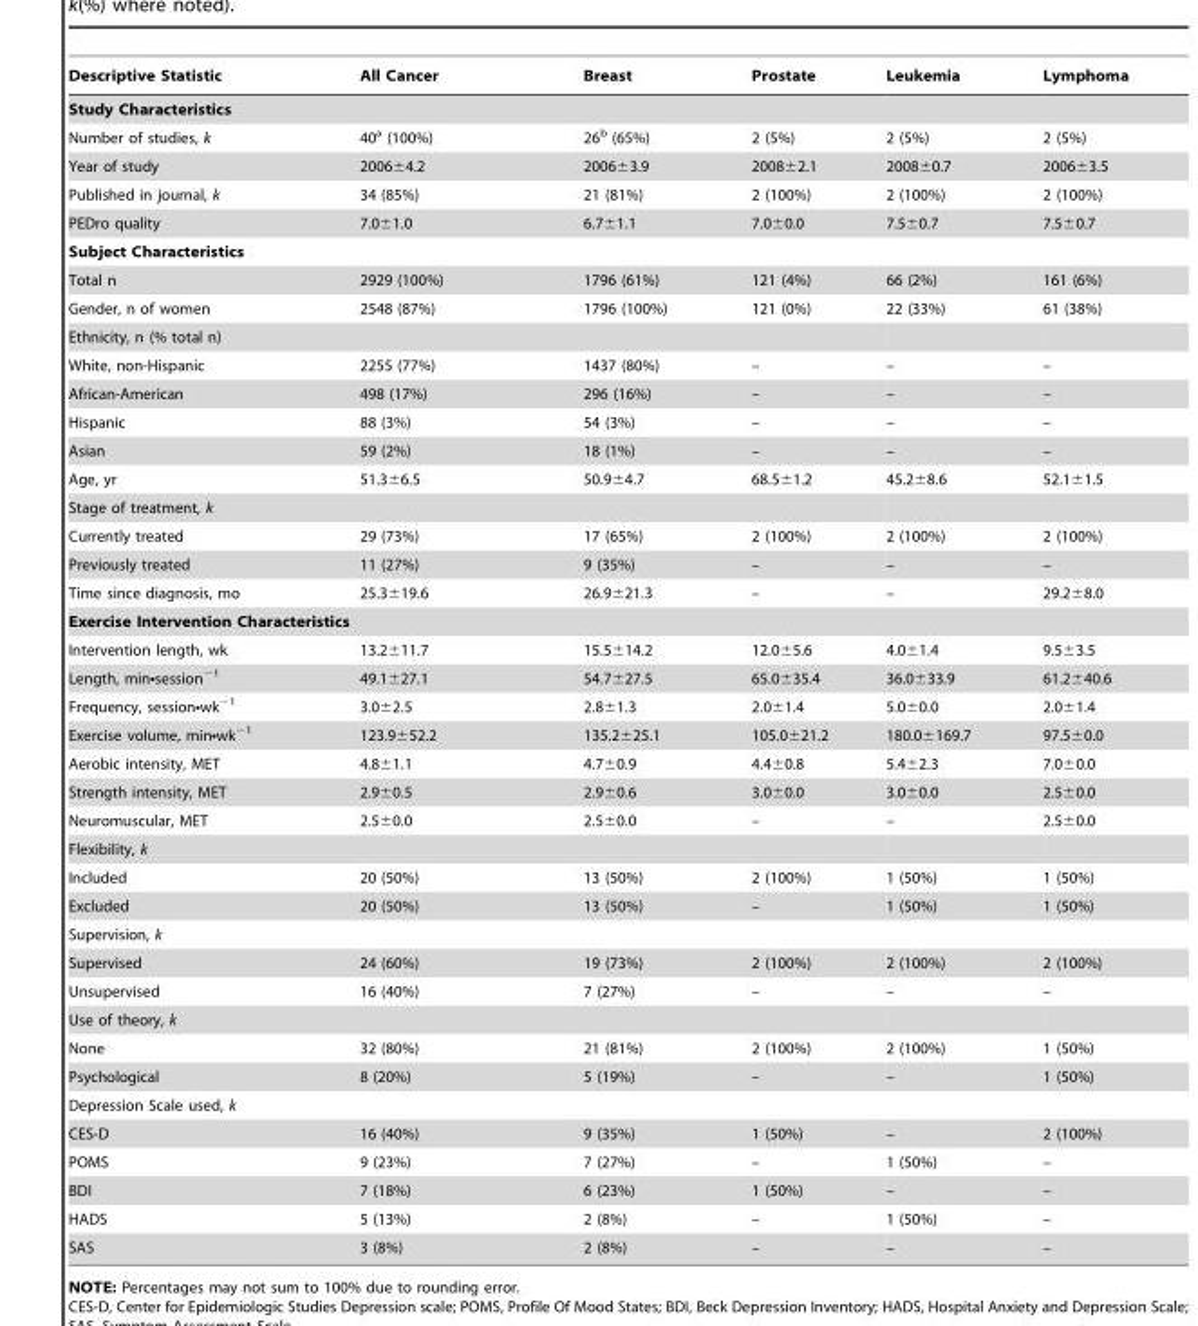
<table><thead><tr><td>Descriptive Statistic</td><td>All Cancer</td><td>Breast</td><td>Prostate</td><td>Leukemia</td><td>Lymphoma</td></tr></thead><tbody><tr><td colspan="6">Study Characteristics</td></tr><tr><td>Number of studies, k</td><td>40<sup>a</sup> (100%)</td><td>26<sup>b</sup> (65%)</td><td>2 (5%)</td><td>2 (5%)</td><td>2 (5%)</td></tr><tr><td>Year of study</td><td>2006±4.2</td><td>2006±3.9</td><td>2008±2.1</td><td>2008±0.7</td><td>2006±3.5</td></tr><tr><td>Published in journal, k</td><td>34 (85%)</td><td>21 (81%)</td><td>2 (100%)</td><td>2 (100%)</td><td>2 (100%)</td></tr><tr><td>PEDro quality</td><td>7.0±1.0</td><td>6.7±1.1</td><td>7.0±0.0</td><td>7.5±0.7</td><td>7.5±0.7</td></tr><tr><td colspan="6">Subject Characteristics</td></tr><tr><td>Total n</td><td>2929 (100%)</td><td>1796 (61%)</td><td>121 (4%)</td><td>66 (2%)</td><td>161 (6%)</td></tr><tr><td>Gender, n of women</td><td>2548 (87%)</td><td>1796 (100%)</td><td>121 (0%)</td><td>22 (33%)</td><td>61 (38%)</td></tr><tr><td colspan="6">Ethnicity, n (% total n)</td></tr><tr><td>White, non-Hispanic</td><td>2255 (77%)</td><td>1437 (80%)</td><td>–</td><td>–</td><td>–</td></tr><tr><td>African-American</td><td>498 (17%)</td><td>296 (16%)</td><td>–</td><td>–</td><td>–</td></tr><tr><td>Hispanic</td><td>88 (3%)</td><td>54 (3%)</td><td>–</td><td>–</td><td>–</td></tr><tr><td>Asian</td><td>59 (2%)</td><td>18 (1%)</td><td>–</td><td>–</td><td>–</td></tr><tr><td>Age, yr</td><td>51.3±6.5</td><td>50.9±4.7</td><td>68.5±1.2</td><td>45.2±8.6</td><td>52.1±1.5</td></tr><tr><td colspan="6">Stage of treatment, k</td></tr><tr><td>Currently treated</td><td>29 (73%)</td><td>17 (65%)</td><td>2 (100%)</td><td>2 (100%)</td><td>2 (100%)</td></tr><tr><td>Previously treated</td><td>11 (27%)</td><td>9 (35%)</td><td>–</td><td>–</td><td>–</td></tr><tr><td>Time since diagnosis, mo</td><td>25.3±19.6</td><td>26.9±21.3</td><td>–</td><td>–</td><td>29.2±8.0</td></tr><tr><td colspan="6">Exercise Intervention Characteristics</td></tr><tr><td>Intervention length, wk</td><td>13.2±11.7</td><td>15.5±14.2</td><td>12.0±5.6</td><td>4.0±1.4</td><td>9.5±3.5</td></tr><tr><td>Length, min•session<sup>−1</sup></td><td>49.1±27.1</td><td>54.7±27.5</td><td>65.0±35.4</td><td>36.0±33.9</td><td>61.2±40.6</td></tr><tr><td>Frequency, session•wk<sup>−1</sup></td><td>3.0±2.5</td><td>2.8±1.3</td><td>2.0±1.4</td><td>5.0±0.0</td><td>2.0±1.4</td></tr><tr><td>Exercise volume, min•wk<sup>−1</sup></td><td>123.9±52.2</td><td>135.2±25.1</td><td>105.0±21.2</td><td>180.0±169.7</td><td>97.5±0.0</td></tr><tr><td>Aerobic intensity, MET</td><td>4.8±1.1</td><td>4.7±0.9</td><td>4.4±0.8</td><td>5.4±2.3</td><td>7.0±0.0</td></tr><tr><td>Strength intensity, MET</td><td>2.9±0.5</td><td>2.9±0.6</td><td>3.0±0.0</td><td>3.0±0.0</td><td>2.5±0.0</td></tr><tr><td>Neuromuscular, MET</td><td>2.5±0.0</td><td>2.5±0.0</td><td>–</td><td>–</td><td>2.5±0.0</td></tr><tr><td colspan="6">Flexibility, k</td></tr><tr><td>Included</td><td>20 (50%)</td><td>13 (50%)</td><td>2 (100%)</td><td>1 (50%)</td><td>1 (50%)</td></tr><tr><td>Excluded</td><td>20 (50%)</td><td>13 (50%)</td><td>–</td><td>1 (50%)</td><td>1 (50%)</td></tr><tr><td colspan="6">Supervision, k</td></tr><tr><td>Supervised</td><td>24 (60%)</td><td>19 (73%)</td><td>2 (100%)</td><td>2 (100%)</td><td>2 (100%)</td></tr><tr><td>Unsupervised</td><td>16 (40%)</td><td>7 (27%)</td><td>–</td><td>–</td><td>–</td></tr><tr><td colspan="6">Use of theory, k</td></tr><tr><td>None</td><td>32 (80%)</td><td>21 (81%)</td><td>2 (100%)</td><td>2 (100%)</td><td>1 (50%)</td></tr><tr><td>Psychological</td><td>8 (20%)</td><td>5 (19%)</td><td>–</td><td>–</td><td>1 (50%)</td></tr><tr><td colspan="6">Depression Scale used, k</td></tr><tr><td>CES-D</td><td>16 (40%)</td><td>9 (35%)</td><td>1 (50%)</td><td>–</td><td>2 (100%)</td></tr><tr><td>POMS</td><td>9 (23%)</td><td>7 (27%)</td><td>–</td><td>1 (50%)</td><td>–</td></tr><tr><td>BDI</td><td>7 (18%)</td><td>6 (23%)</td><td>1 (50%)</td><td>–</td><td>–</td></tr><tr><td>HADS</td><td>5 (13%)</td><td>2 (8%)</td><td>–</td><td>1 (50%)</td><td>–</td></tr><tr><td>SAS</td><td>3 (8%)</td><td>2 (8%)</td><td>–</td><td>–</td><td>–</td></tr></tbody></table>